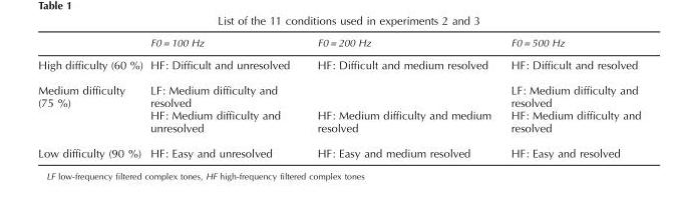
<table><thead><tr><td></td><td>F0 = 100 Hz</td><td>F0 = 200 Hz</td><td>F0 = 500 Hz</td></tr></thead><tbody><tr><td>High difficulty (60 %)</td><td>HF: Difficult and unresolved</td><td>HF: Difficult and medium resolved</td><td>HF: Difficult and resolved</td></tr><tr><td rowspan="2">Medium difficulty (75 %)</td><td>LF: Medium difficulty and resolved</td><td></td><td>LF: Medium difficulty and resolved</td></tr><tr><td>HF: Medium difficulty and unresolved</td><td>HF: Medium difficulty and medium resolved</td><td>HF: Medium difficulty and resolved</td></tr><tr><td>Low difficulty (90 %)</td><td>HF: Easy and unresolved</td><td>HF: Easy and medium resolved</td><td>HF: Easy and resolved</td></tr></tbody></table>